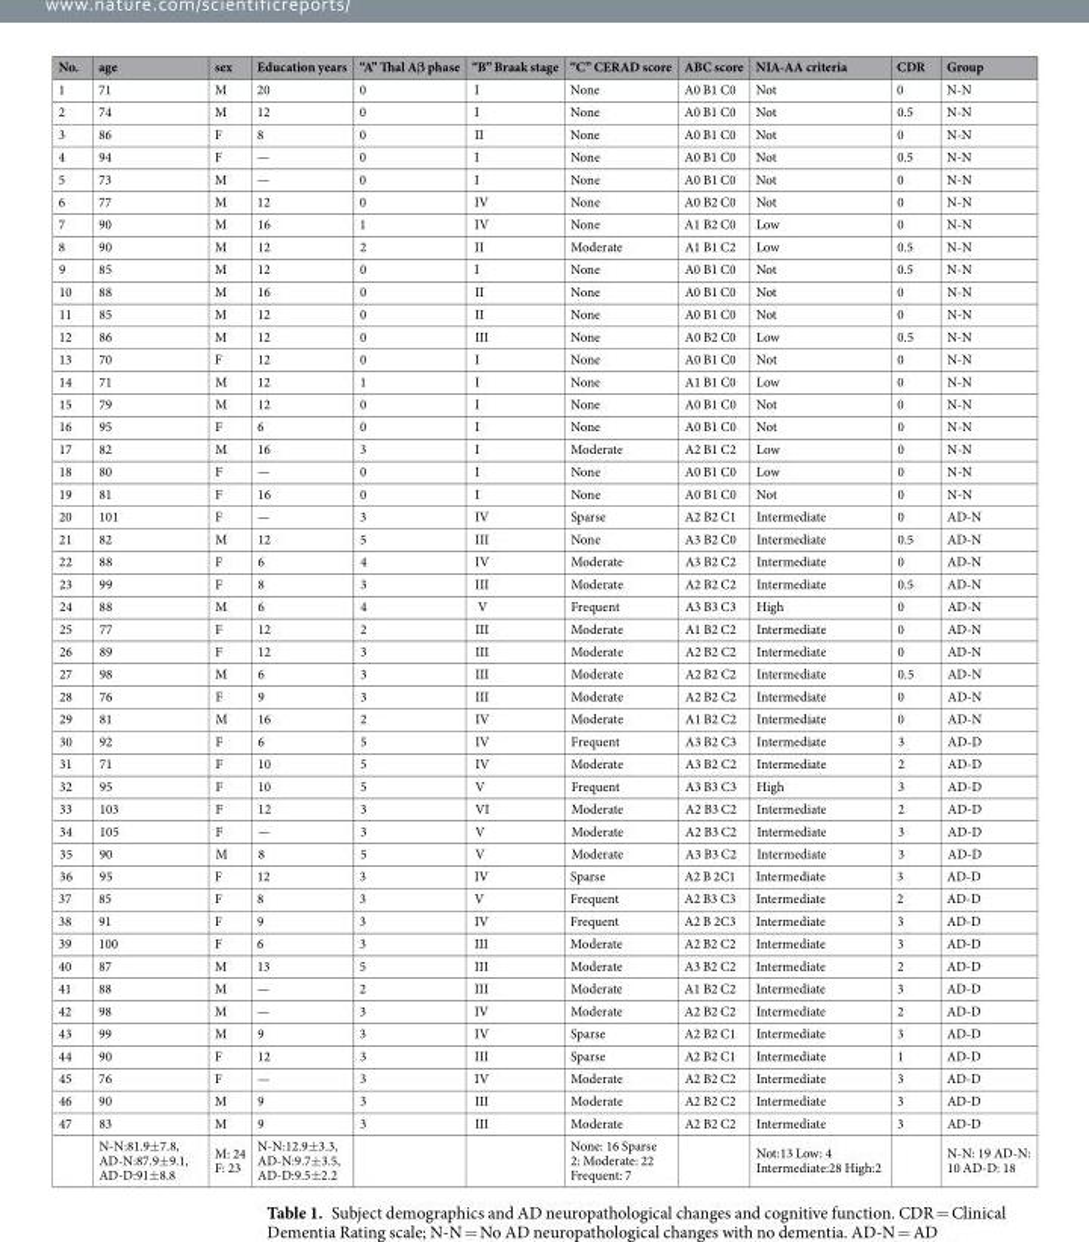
<table><thead><tr><td>No.</td><td>age</td><td>sex</td><td>Education years</td><td>“A” Thal Aβ phase</td><td>“B” Braak stage</td><td>“C” CERAD score</td><td>ABC score</td><td>NIA-AA criteria</td><td>CDR</td><td>Group</td></tr></thead><tbody><tr><td>1</td><td>71</td><td>M</td><td>20</td><td>0</td><td>I</td><td>None</td><td>A0 B1 C0</td><td>Not</td><td>0</td><td>N-N</td></tr><tr><td>2</td><td>74</td><td>M</td><td>12</td><td>0</td><td>I</td><td>None</td><td>A0 B1 C0</td><td>Not</td><td>0.5</td><td>N-N</td></tr><tr><td>3</td><td>86</td><td>F</td><td>8</td><td>0</td><td>II</td><td>None</td><td>A0 B1 C0</td><td>Not</td><td>0</td><td>N-N</td></tr><tr><td>4</td><td>94</td><td>F</td><td>—</td><td>0</td><td>I</td><td>None</td><td>A0 B1 C0</td><td>Not</td><td>0.5</td><td>N-N</td></tr><tr><td>5</td><td>73</td><td>M</td><td>—</td><td>0</td><td>I</td><td>None</td><td>A0 B1 C0</td><td>Not</td><td>0</td><td>N-N</td></tr><tr><td>6</td><td>77</td><td>M</td><td>12</td><td>0</td><td>IV</td><td>None</td><td>A0 B2 C0</td><td>Not</td><td>0</td><td>N-N</td></tr><tr><td>7</td><td>90</td><td>M</td><td>16</td><td>1</td><td>IV</td><td>None</td><td>A1 B2 C0</td><td>Low</td><td>0</td><td>N-N</td></tr><tr><td>8</td><td>90</td><td>M</td><td>12</td><td>2</td><td>II</td><td>Moderate</td><td>A1 B1 C2</td><td>Low</td><td>0.5</td><td>N-N</td></tr><tr><td>9</td><td>85</td><td>M</td><td>12</td><td>0</td><td>I</td><td>None</td><td>A0 B1 C0</td><td>Not</td><td>0.5</td><td>N-N</td></tr><tr><td>10</td><td>88</td><td>M</td><td>16</td><td>0</td><td>II</td><td>None</td><td>A0 B1 C0</td><td>Not</td><td>0</td><td>N-N</td></tr><tr><td>11</td><td>85</td><td>M</td><td>12</td><td>0</td><td>II</td><td>None</td><td>A0 B1 C0</td><td>Not</td><td>0</td><td>N-N</td></tr><tr><td>12</td><td>86</td><td>M</td><td>12</td><td>0</td><td>III</td><td>None</td><td>A0 B2 C0</td><td>Low</td><td>0.5</td><td>N-N</td></tr><tr><td>13</td><td>70</td><td>F</td><td>12</td><td>0</td><td>I</td><td>None</td><td>A0 B1 C0</td><td>Not</td><td>0</td><td>N-N</td></tr><tr><td>14</td><td>71</td><td>M</td><td>12</td><td>1</td><td>I</td><td>None</td><td>A1 B1 C0</td><td>Low</td><td>0</td><td>N-N</td></tr><tr><td>15</td><td>79</td><td>M</td><td>12</td><td>0</td><td>I</td><td>None</td><td>A0 B1 C0</td><td>Not</td><td>0</td><td>N-N</td></tr><tr><td>16</td><td>95</td><td>F</td><td>6</td><td>0</td><td>I</td><td>None</td><td>A0 B1 C0</td><td>Not</td><td>0</td><td>N-N</td></tr><tr><td>17</td><td>82</td><td>M</td><td>16</td><td>3</td><td>I</td><td>Moderate</td><td>A2 B1 C2</td><td>Low</td><td>0</td><td>N-N</td></tr><tr><td>18</td><td>80</td><td>F</td><td>—</td><td>0</td><td>I</td><td>None</td><td>A0 B1 C0</td><td>Low</td><td>0</td><td>N-N</td></tr><tr><td>19</td><td>81</td><td>F</td><td>16</td><td>0</td><td>I</td><td>None</td><td>A0 B1 C0</td><td>Not</td><td>0</td><td>N-N</td></tr><tr><td>20</td><td>101</td><td>F</td><td>—</td><td>3</td><td>IV</td><td>Sparse</td><td>A2 B2 C1</td><td>Intermediate</td><td>0</td><td>AD-N</td></tr><tr><td>21</td><td>82</td><td>M</td><td>12</td><td>5</td><td>III</td><td>None</td><td>A3 B2 C0</td><td>Intermediate</td><td>0.5</td><td>AD-N</td></tr><tr><td>22</td><td>88</td><td>F</td><td>6</td><td>4</td><td>IV</td><td>Moderate</td><td>A3 B2 C2</td><td>Intermediate</td><td>0</td><td>AD-N</td></tr><tr><td>23</td><td>99</td><td>F</td><td>8</td><td>3</td><td>III</td><td>Moderate</td><td>A2 B2 C2</td><td>Intermediate</td><td>0.5</td><td>AD-N</td></tr><tr><td>24</td><td>88</td><td>M</td><td>6</td><td>4</td><td>V</td><td>Frequent</td><td>A3 B3 C3</td><td>High</td><td>0</td><td>AD-N</td></tr><tr><td>25</td><td>77</td><td>F</td><td>12</td><td>2</td><td>III</td><td>Moderate</td><td>A1 B2 C2</td><td>Intermediate</td><td>0</td><td>AD-N</td></tr><tr><td>26</td><td>89</td><td>F</td><td>12</td><td>3</td><td>III</td><td>Moderate</td><td>A2 B2 C2</td><td>Intermediate</td><td>0</td><td>AD-N</td></tr><tr><td>27</td><td>98</td><td>M</td><td>6</td><td>3</td><td>III</td><td>Moderate</td><td>A2 B2 C2</td><td>Intermediate</td><td>0.5</td><td>AD-N</td></tr><tr><td>28</td><td>76</td><td>F</td><td>9</td><td>3</td><td>III</td><td>Moderate</td><td>A2 B2 C2</td><td>Intermediate</td><td>0</td><td>AD-N</td></tr><tr><td>29</td><td>81</td><td>M</td><td>16</td><td>2</td><td>IV</td><td>Moderate</td><td>A1 B2 C2</td><td>Intermediate</td><td>0</td><td>AD-N</td></tr><tr><td>30</td><td>92</td><td>F</td><td>6</td><td>5</td><td>IV</td><td>Frequent</td><td>A3 B2 C3</td><td>Intermediate</td><td>3</td><td>AD-D</td></tr><tr><td>31</td><td>71</td><td>F</td><td>10</td><td>5</td><td>IV</td><td>Moderate</td><td>A3 B2 C2</td><td>Intermediate</td><td>2</td><td>AD-D</td></tr><tr><td>32</td><td>95</td><td>F</td><td>10</td><td>5</td><td>V</td><td>Frequent</td><td>A3 B3 C3</td><td>High</td><td>3</td><td>AD-D</td></tr><tr><td>33</td><td>103</td><td>F</td><td>12</td><td>3</td><td>VI</td><td>Moderate</td><td>A2 B3 C2</td><td>Intermediate</td><td>2</td><td>AD-D</td></tr><tr><td>34</td><td>105</td><td>F</td><td>—</td><td>3</td><td>V</td><td>Moderate</td><td>A2 B3 C2</td><td>Intermediate</td><td>3</td><td>AD-D</td></tr><tr><td>35</td><td>90</td><td>M</td><td>8</td><td>5</td><td>V</td><td>Moderate</td><td>A3 B3 C2</td><td>Intermediate</td><td>3</td><td>AD-D</td></tr><tr><td>36</td><td>95</td><td>F</td><td>12</td><td>3</td><td>IV</td><td>Sparse</td><td>A2 B 2C1</td><td>Intermediate</td><td>3</td><td>AD-D</td></tr><tr><td>37</td><td>85</td><td>F</td><td>8</td><td>3</td><td>V</td><td>Frequent</td><td>A2 B3 C3</td><td>Intermediate</td><td>2</td><td>AD-D</td></tr><tr><td>38</td><td>91</td><td>F</td><td>9</td><td>3</td><td>IV</td><td>Frequent</td><td>A2 B 2C3</td><td>Intermediate</td><td>3</td><td>AD-D</td></tr><tr><td>39</td><td>100</td><td>F</td><td>6</td><td>3</td><td>III</td><td>Moderate</td><td>A2 B2 C2</td><td>Intermediate</td><td>3</td><td>AD-D</td></tr><tr><td>40</td><td>87</td><td>M</td><td>13</td><td>5</td><td>III</td><td>Moderate</td><td>A3 B2 C2</td><td>Intermediate</td><td>2</td><td>AD-D</td></tr><tr><td>41</td><td>88</td><td>M</td><td>—</td><td>2</td><td>III</td><td>Moderate</td><td>A1 B2 C2</td><td>Intermediate</td><td>3</td><td>AD-D</td></tr><tr><td>42</td><td>98</td><td>M</td><td>—</td><td>3</td><td>IV</td><td>Moderate</td><td>A2 B2 C2</td><td>Intermediate</td><td>2</td><td>AD-D</td></tr><tr><td>43</td><td>99</td><td>M</td><td>9</td><td>3</td><td>IV</td><td>Sparse</td><td>A2 B2 C1</td><td>Intermediate</td><td>3</td><td>AD-D</td></tr><tr><td>44</td><td>90</td><td>F</td><td>12</td><td>3</td><td>III</td><td>Sparse</td><td>A2 B2 C1</td><td>Intermediate</td><td>1</td><td>AD-D</td></tr><tr><td>45</td><td>76</td><td>F</td><td>—</td><td>3</td><td>IV</td><td>Moderate</td><td>A2 B2 C2</td><td>Intermediate</td><td>3</td><td>AD-D</td></tr><tr><td>46</td><td>90</td><td>M</td><td>9</td><td>3</td><td>III</td><td>Moderate</td><td>A2 B2 C2</td><td>Intermediate</td><td>3</td><td>AD-D</td></tr><tr><td rowspan="2">47</td><td>83</td><td>M</td><td>9</td><td>3</td><td>III</td><td>Moderate</td><td>A2 B2 C2</td><td>Intermediate</td><td>3</td><td>AD-D</td></tr><tr><td>N-N:81.9±7.8, AD-N:87.9±9.1, AD-D:91±8.8</td><td>M: 24 F: 23</td><td>N-N:12.9±3.3, AD-N:9.7±3.5, AD-D:9.5±2.2</td><td></td><td></td><td>None: 16 Sparse 2: Moderate: 22 Frequent: 7</td><td></td><td>Not:13 Low: 4 Intermediate:28 High:2</td><td></td><td>N-N: 19 AD-N: 10 AD-D: 18</td></tr></tbody></table>